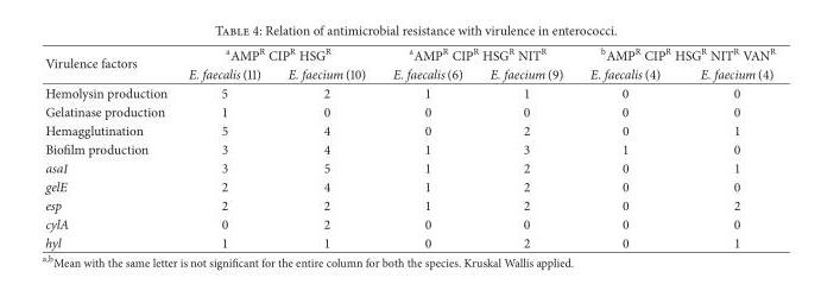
<table><thead><tr><td rowspan="2">Virulence factors</td><td colspan="2"><sup>a</sup>AMP<sup>R</sup> CIP<sup>R</sup> HSG<sup>R</sup></td><td colspan="2"><sup>a</sup>AMP<sup>R</sup> CIP<sup>R</sup> HSG<sup>R</sup> NIT<sup>R</sup></td><td colspan="2"><sup>b</sup>AMP<sup>R</sup> CIP<sup>R</sup> HSG<sup>R</sup> NIT<sup>R</sup> VAN<sup>R</sup></td></tr><tr><td>E. faecalis (11)</td><td>E. faecium (10)</td><td>E. faecalis (6)</td><td>E. faecium (9)</td><td>E. faecalis (4)</td><td>E. faecium (4)</td></tr></thead><tbody><tr><td>Hemolysin production</td><td>5</td><td>2</td><td>1</td><td>1</td><td>0</td><td>0</td></tr><tr><td>Gelatinase production</td><td>1</td><td>0</td><td>0</td><td>0</td><td>0</td><td>0</td></tr><tr><td>Hemagglutination</td><td>5</td><td>4</td><td>0</td><td>2</td><td>0</td><td>1</td></tr><tr><td>Biofilm production</td><td>3</td><td>4</td><td>1</td><td>3</td><td>1</td><td>0</td></tr><tr><td>asa1</td><td>3</td><td>5</td><td>1</td><td>2</td><td>0</td><td>1</td></tr><tr><td>gelE</td><td>2</td><td>4</td><td>1</td><td>2</td><td>0</td><td>0</td></tr><tr><td>esp</td><td>2</td><td>2</td><td>1</td><td>2</td><td>0</td><td>2</td></tr><tr><td>cylA</td><td>0</td><td>2</td><td>0</td><td>0</td><td>0</td><td>0</td></tr><tr><td>hyl</td><td>1</td><td>1</td><td>0</td><td>2</td><td>0</td><td>1</td></tr></tbody></table>